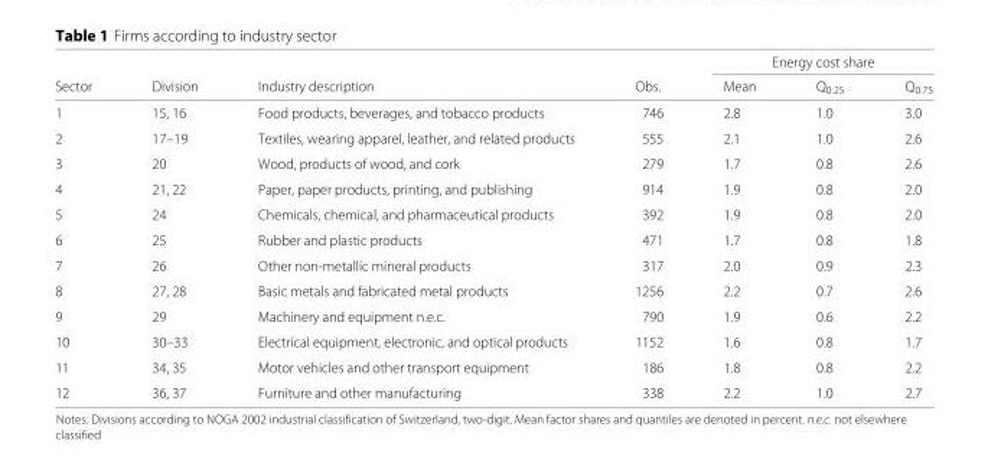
<table><thead><tr><td rowspan="2">Sector</td><td rowspan="2">Division</td><td rowspan="2">Industry description</td><td rowspan="2">Obs.</td><td colspan="3">Energy cost share</td></tr><tr><td>Mean</td><td>Q<sub>0.25</sub></td><td>Q<sub>0.75</sub></td></tr></thead><tbody><tr><td>1</td><td>15, 16</td><td>Food products, beverages, and tobacco products</td><td>746</td><td>2.8</td><td>1.0</td><td>3.0</td></tr><tr><td>2</td><td>17–19</td><td>Textiles, wearing apparel, leather, and related products</td><td>555</td><td>2.1</td><td>1.0</td><td>2.6</td></tr><tr><td>3</td><td>20</td><td>Wood, products of wood, and cork</td><td>279</td><td>1.7</td><td>0.8</td><td>2.6</td></tr><tr><td>4</td><td>21, 22</td><td>Paper, paper products, printing, and publishing</td><td>914</td><td>1.9</td><td>0.8</td><td>2.0</td></tr><tr><td>5</td><td>24</td><td>Chemicals, chemical, and pharmaceutical products</td><td>392</td><td>1.9</td><td>0.8</td><td>2.0</td></tr><tr><td>6</td><td>25</td><td>Rubber and plastic products</td><td>471</td><td>1.7</td><td>0.8</td><td>1.8</td></tr><tr><td>7</td><td>26</td><td>Other non-metallic mineral products</td><td>317</td><td>2.0</td><td>0.9</td><td>2.3</td></tr><tr><td>8</td><td>27, 28</td><td>Basic metals and fabricated metal products</td><td>1256</td><td>2.2</td><td>0.7</td><td>2.6</td></tr><tr><td>9</td><td>29</td><td>Machinery and equipment n.e.c.</td><td>790</td><td>1.9</td><td>0.6</td><td>2.2</td></tr><tr><td>10</td><td>30–33</td><td>Electrical equipment, electronic, and optical products</td><td>1152</td><td>1.6</td><td>0.8</td><td>1.7</td></tr><tr><td>11</td><td>34, 35</td><td>Motor vehicles and other transport equipment</td><td>186</td><td>1.8</td><td>0.8</td><td>2.2</td></tr><tr><td>12</td><td>36, 37</td><td>Furniture and other manufacturing</td><td>338</td><td>2.2</td><td>1.0</td><td>2.7</td></tr></tbody></table>